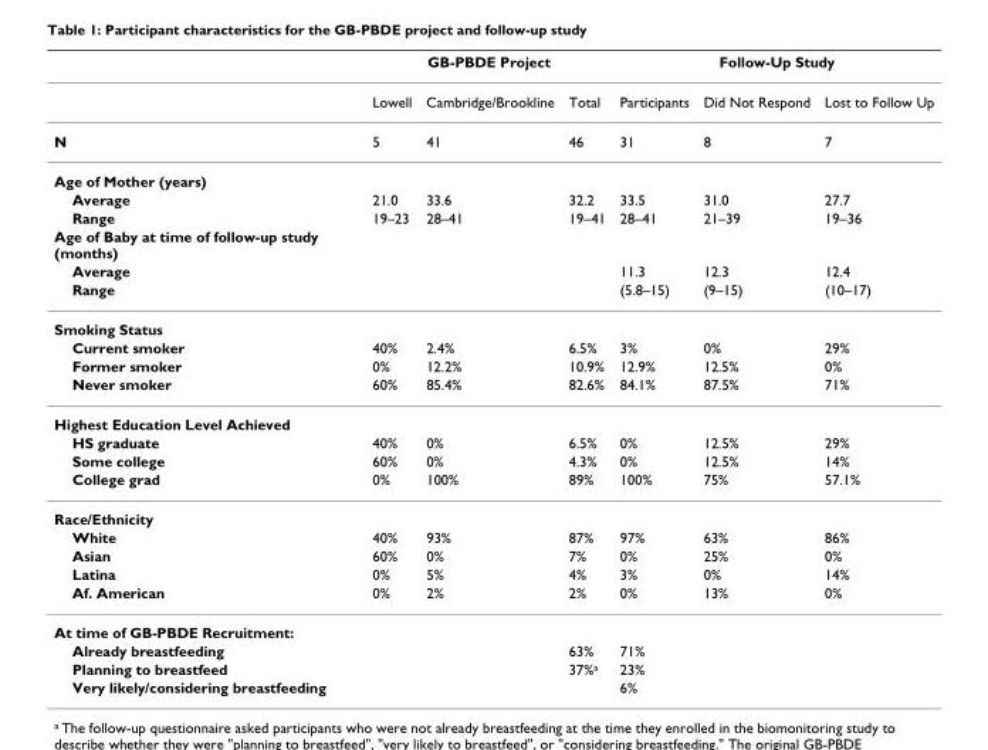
<table><thead><tr><td rowspan="2"></td><td colspan="3">GB-PBDE Project</td><td colspan="3">Follow-Up Study</td></tr><tr><td>Lowell</td><td>Cambridge/Brookline</td><td>Total</td><td>Participants</td><td>Did Not Respond</td><td>Lost to Follow Up</td></tr></thead><tbody><tr><td>N</td><td>5</td><td>41</td><td>46</td><td>31</td><td>8</td><td>7</td></tr><tr><td colspan="7">Age of Mother (years)</td></tr><tr><td>Average</td><td>21.0</td><td>33.6</td><td>32.2</td><td>33.5</td><td>31.0</td><td>27.7</td></tr><tr><td>Range</td><td>19–23</td><td>28–41</td><td>19–41</td><td>28–41</td><td>21–39</td><td>19–36</td></tr><tr><td colspan="7">Age of Baby at time of follow-up study (months)</td></tr><tr><td>Average</td><td></td><td></td><td></td><td>11.3</td><td>12.3</td><td>12.4</td></tr><tr><td>Range</td><td></td><td></td><td></td><td>(5.8–15)</td><td>(9–15)</td><td>(10–17)</td></tr><tr><td colspan="7">Smoking Status</td></tr><tr><td>Current smoker</td><td>40%</td><td>2.4%</td><td>6.5%</td><td>3%</td><td>0%</td><td>29%</td></tr><tr><td>Former smoker</td><td>0%</td><td>12.2%</td><td>10.9%</td><td>12.9%</td><td>12.5%</td><td>0%</td></tr><tr><td>Never smoker</td><td>60%</td><td>85.4%</td><td>82.6%</td><td>84.1%</td><td>87.5%</td><td>71%</td></tr><tr><td colspan="7">Highest Education Level Achieved</td></tr><tr><td>HS graduate</td><td>40%</td><td>0%</td><td>6.5%</td><td>0%</td><td>12.5%</td><td>29%</td></tr><tr><td>Some college</td><td>60%</td><td>0%</td><td>4.3%</td><td>0%</td><td>12.5%</td><td>14%</td></tr><tr><td>College grad</td><td>0%</td><td>100%</td><td>89%</td><td>100%</td><td>75%</td><td>57.1%</td></tr><tr><td colspan="7">Race/Ethnicity</td></tr><tr><td>White</td><td>40%</td><td>93%</td><td>87%</td><td>97%</td><td>63%</td><td>86%</td></tr><tr><td>Asian</td><td>60%</td><td>0%</td><td>7%</td><td>0%</td><td>25%</td><td>0%</td></tr><tr><td>Latina</td><td>0%</td><td>5%</td><td>4%</td><td>3%</td><td>0%</td><td>14%</td></tr><tr><td>Af. American</td><td>0%</td><td>2%</td><td>2%</td><td>0%</td><td>13%</td><td>0%</td></tr><tr><td colspan="7">At time of GB-PBDE Recruitment:</td></tr><tr><td>Already breastfeeding</td><td></td><td></td><td>63%</td><td>71%</td><td></td><td></td></tr><tr><td>Planning to breastfeed</td><td></td><td></td><td>37%<sup>a</sup></td><td>23%</td><td></td><td></td></tr><tr><td>Very likely/considering breastfeeding</td><td></td><td></td><td></td><td>6%</td><td></td><td></td></tr></tbody></table>